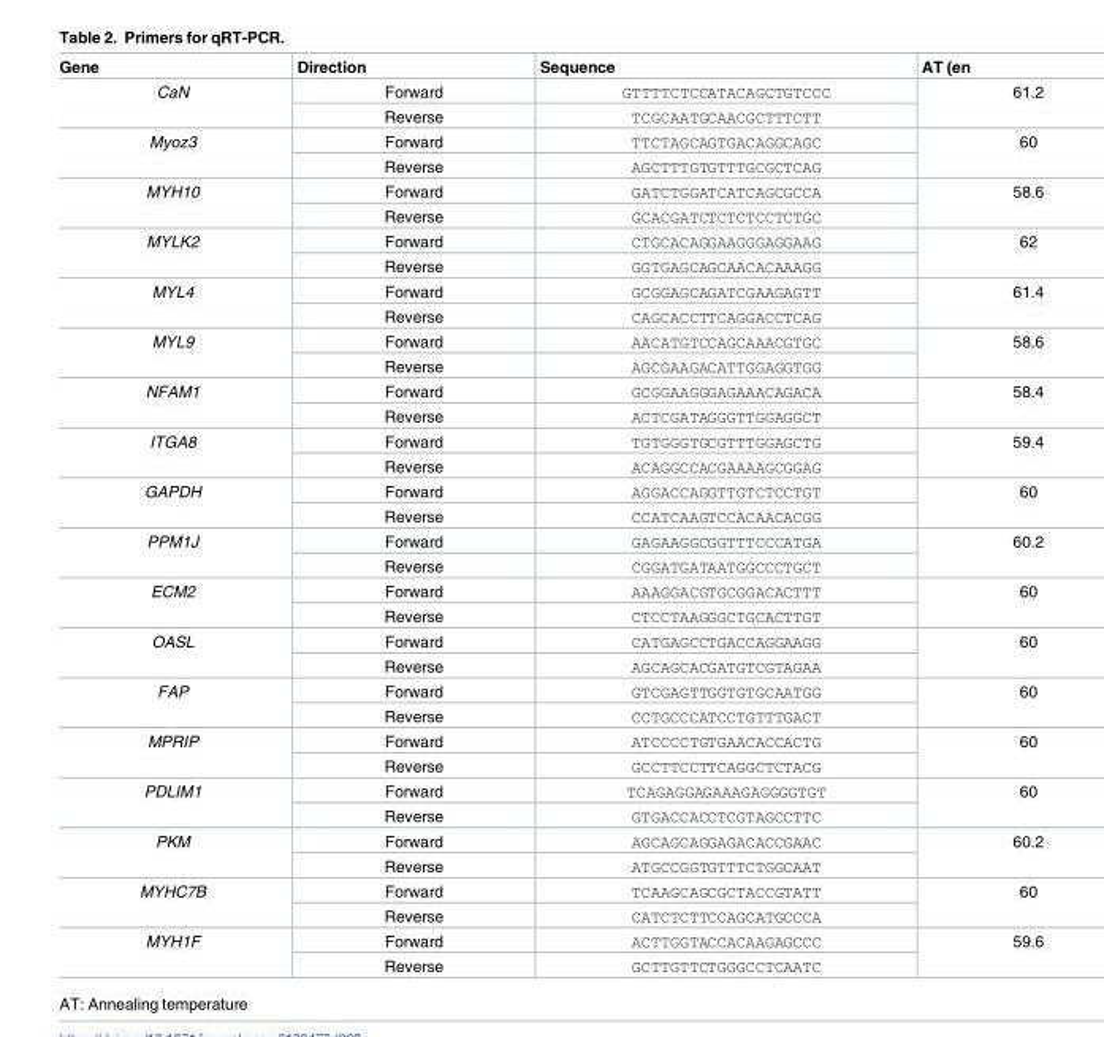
<table><thead><tr><td>Gene</td><td>Direction</td><td>Sequence</td><td>AT (en</td></tr></thead><tbody><tr><td rowspan="2">CaN</td><td>Forward</td><td>GTTTTCTCCATACAGCTGTCCC</td><td rowspan="2">61.2</td></tr><tr><td>Reverse</td><td>TCGCAATGCAACGCTTTCTT</td></tr><tr><td rowspan="2">Myoz3</td><td>Forward</td><td>TTCTAGCAGTGACAGGCAGC</td><td rowspan="2">60</td></tr><tr><td>Reverse</td><td>AGCTTTGTGTTTGCGCTCAG</td></tr><tr><td rowspan="2">MYH10</td><td>Forward</td><td>GATCTGGATCATCAGCGCCA</td><td rowspan="2">58.6</td></tr><tr><td>Reverse</td><td>GCACGATCTCTCTCCTCTGC</td></tr><tr><td rowspan="2">MYLK2</td><td>Forward</td><td>CTGCACAGGAAGGGAGGAAG</td><td rowspan="2">62</td></tr><tr><td>Reverse</td><td>GGTGAGCAGCAACACAAAGG</td></tr><tr><td rowspan="2">MYL4</td><td>Forward</td><td>GCGGAGCAGATCGAAGAGTT</td><td rowspan="2">61.4</td></tr><tr><td>Reverse</td><td>CAGCACCTTCAGGACCTCAG</td></tr><tr><td rowspan="2">MYL9</td><td>Forward</td><td>AACATGTCCAGCAAACGTGC</td><td rowspan="2">58.6</td></tr><tr><td>Reverse</td><td>AGCGAAGACATTGGAGGTGG</td></tr><tr><td rowspan="2">NFAM1</td><td>Forward</td><td>GCGGAAGGGAGAAACAGACA</td><td rowspan="2">58.4</td></tr><tr><td>Reverse</td><td>ACTCGATAGGGTTGGAGGCT</td></tr><tr><td rowspan="2">ITGA8</td><td>Forward</td><td>TGTGGGTGCGTTTGGAGCTG</td><td rowspan="2">59.4</td></tr><tr><td>Reverse</td><td>ACAGGCCACGAAAAGCGGAG</td></tr><tr><td rowspan="2">GAPDH</td><td>Forward</td><td>AGGACCAGGTTGTCTCCTGT</td><td rowspan="2">60</td></tr><tr><td>Reverse</td><td>CCATCAAGTCCACAACACGG</td></tr><tr><td rowspan="2">PPM1J</td><td>Forward</td><td>GAGAAGGCGGTTTCCCATGA</td><td rowspan="2">60.2</td></tr><tr><td>Reverse</td><td>CGGATGATAATGGCCCTGCT</td></tr><tr><td rowspan="2">ECM2</td><td>Forward</td><td>AAAGGACGTGCGGACACTTT</td><td rowspan="2">60</td></tr><tr><td>Reverse</td><td>CTCCTAAGGGCTGCACTTGT</td></tr><tr><td rowspan="2">OASL</td><td>Forward</td><td>CATGAGCCTGACCAGGAAGG</td><td rowspan="2">60</td></tr><tr><td>Reverse</td><td>AGCAGCACGATGTCGTAGAA</td></tr><tr><td rowspan="2">FAP</td><td>Forward</td><td>GTCGAGTTGGTGTGCAATGG</td><td rowspan="2">60</td></tr><tr><td>Reverse</td><td>CCTGCCCATCCTGTTTGACT</td></tr><tr><td rowspan="2">MPRIP</td><td>Forward</td><td>ATCCCCTGTGAACACCACTG</td><td rowspan="2">60</td></tr><tr><td>Reverse</td><td>GCCTTCCTTCAGGCTCTACG</td></tr><tr><td rowspan="2">PDLIM1</td><td>Forward</td><td>TCAGAGGAGAAAGAGGGGTGT</td><td rowspan="2">60</td></tr><tr><td>Reverse</td><td>GTGACCACCTCGTAGCCTTC</td></tr><tr><td rowspan="2">PKM</td><td>Forward</td><td>AGCAGCAGGAGACACCGAAC</td><td rowspan="2">60.2</td></tr><tr><td>Reverse</td><td>ATGCCGGTGTTTCTGGCAAT</td></tr><tr><td rowspan="2">MYHC7B</td><td>Forward</td><td>TCAAGCAGCGCTACCGTATT</td><td rowspan="2">60</td></tr><tr><td>Reverse</td><td>CATCTCTTCCAGCATGCCCA</td></tr><tr><td rowspan="2">MYH1F</td><td>Forward</td><td>ACTTGGTACCACAAGAGCCC</td><td rowspan="2">59.6</td></tr><tr><td>Reverse</td><td>GCTTGTTCTGGGCCTCAATC</td></tr></tbody></table>